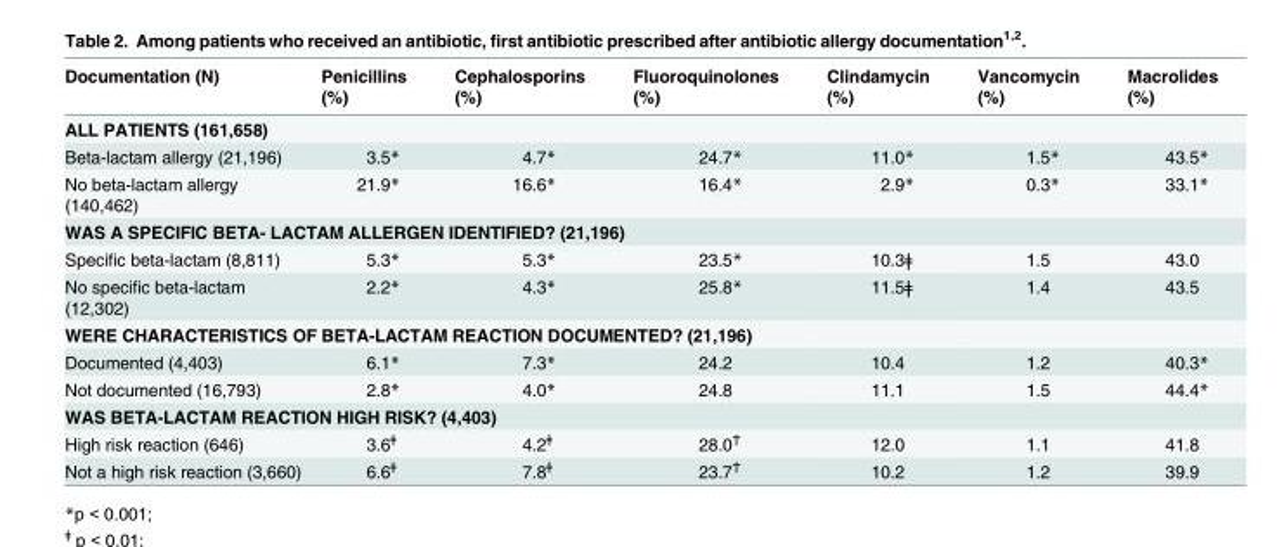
<table><thead><tr><td>Documentation (N)</td><td>Penicillins (%)</td><td>Cephalosporins (%)</td><td>Fluoroquinolones (%)</td><td>Clindamycin (%)</td><td>Vancomycin (%)</td><td>Macrolides (%)</td></tr></thead><tbody><tr><td colspan="7">ALL PATIENTS (161,658)</td></tr><tr><td>Beta-lactam allergy (21,196)</td><td>3.5*</td><td>4.7*</td><td>24.7*</td><td>11.0*</td><td>1.5*</td><td>43.5*</td></tr><tr><td>No beta-lactam allergy (140,462)</td><td>21.9*</td><td>16.6*</td><td>16.4*</td><td>2.9*</td><td>0.3*</td><td>33.1*</td></tr><tr><td colspan="7">WAS A SPECIFIC BETA- LACTAM ALLERGEN IDENTIFIED? (21,196)</td></tr><tr><td>Specific beta-lactam (8,811)</td><td>5.3*</td><td>5.3*</td><td>23.5*</td><td>10.3ǂ</td><td>1.5</td><td>43.0</td></tr><tr><td>No specific beta-lactam (12,302)</td><td>2.2*</td><td>4.3*</td><td>25.8*</td><td>11.5ǂ</td><td>1.4</td><td>43.5</td></tr><tr><td colspan="7">WERE CHARACTERISTICS OF BETA-LACTAM REACTION DOCUMENTED? (21,196)</td></tr><tr><td>Documented (4,403)</td><td>6.1*</td><td>7.3*</td><td>24.2</td><td>10.4</td><td>1.2</td><td>40.3*</td></tr><tr><td>Not documented (16,793)</td><td>2.8*</td><td>4.0*</td><td>24.8</td><td>11.1</td><td>1.5</td><td>44.4*</td></tr><tr><td colspan="7">WAS BETA-LACTAM REACTION HIGH RISK? (4,403)</td></tr><tr><td>High risk reaction (646)</td><td>3.6<sup>ǂ</sup></td><td>4.2<sup>ǂ</sup></td><td>28.0<sup>Ϯ</sup></td><td>12.0</td><td>1.1</td><td>41.8</td></tr><tr><td>Not a high risk reaction (3,660)</td><td>6.6<sup>ǂ</sup></td><td>7.8<sup>ǂ</sup></td><td>23.7<sup>Ϯ</sup></td><td>10.2</td><td>1.2</td><td>39.9</td></tr></tbody></table>